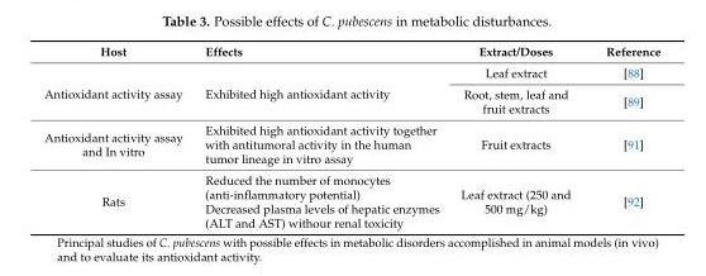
<table><thead><tr><td>Host</td><td>Effects</td><td>Extract/Doses</td><td>Reference</td></tr></thead><tbody><tr><td rowspan="2">Antioxidant activity assay</td><td rowspan="2">Exhibited high antioxidant activity</td><td>Leaf extract</td><td>[88]</td></tr><tr><td>Root, stem, leaf and fruit extracts</td><td>[89]</td></tr><tr><td>Antioxidant activity assay and In vitro</td><td>Exhibited high antioxidant activity together with antitumoral activity in the human tumor lineage in vitro assay</td><td>Fruit extracts</td><td>[91]</td></tr><tr><td>Rats</td><td>Reduced the number of monocytes (anti-inflammatory potential) Decreased plasma levels of hepatic enzymes (ALT and AST) withour renal toxicity</td><td>Leaf extract (250 and 500 mg/kg)</td><td>[92]</td></tr></tbody></table>